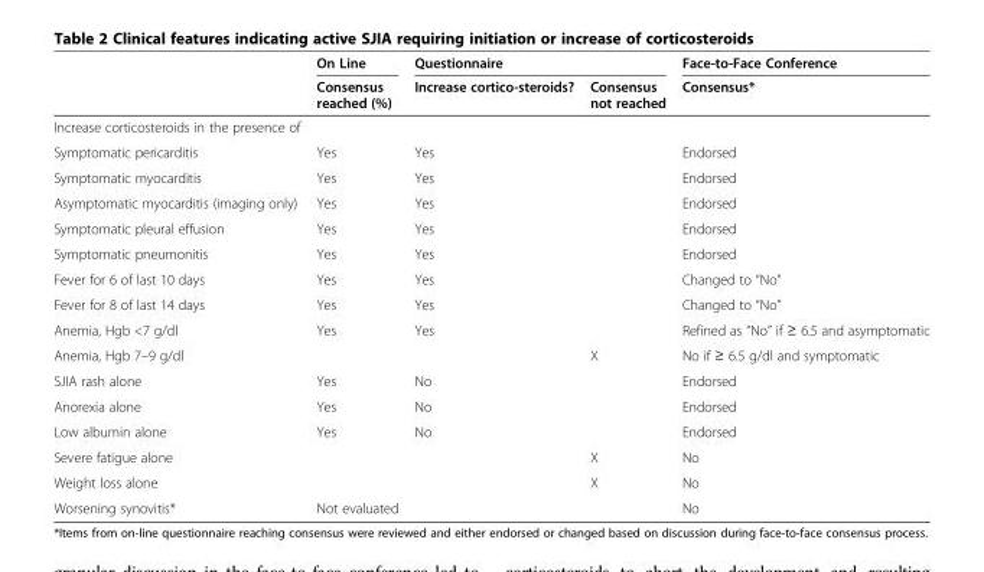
<table><thead><tr><td rowspan="2"></td><td rowspan="2">On Line Consensus reached (%)</td><td colspan="2">Questionnaire</td><td rowspan="2">Face-to-Face Conference Consensus*</td></tr><tr><td>Increase cortico-steroids?</td><td>Consensus not reached</td></tr></thead><tbody><tr><td colspan="5">Increase corticosteroids in the presence of</td></tr><tr><td>Symptomatic pericarditis</td><td>Yes</td><td>Yes</td><td></td><td>Endorsed</td></tr><tr><td>Symptomatic myocarditis</td><td>Yes</td><td>Yes</td><td></td><td>Endorsed</td></tr><tr><td>Asymptomatic myocarditis (imaging only)</td><td>Yes</td><td>Yes</td><td></td><td>Endorsed</td></tr><tr><td>Symptomatic pleural effusion</td><td>Yes</td><td>Yes</td><td></td><td>Endorsed</td></tr><tr><td>Symptomatic pneumonitis</td><td>Yes</td><td>Yes</td><td></td><td>Endorsed</td></tr><tr><td>Fever for 6 of last 10 days</td><td>Yes</td><td>Yes</td><td></td><td>Changed to “No”</td></tr><tr><td>Fever for 8 of last 14 days</td><td>Yes</td><td>Yes</td><td></td><td>Changed to “No”</td></tr><tr><td>Anemia, Hgb &lt;7 g/dl</td><td>Yes</td><td>Yes</td><td></td><td>Refined as “No” if ≥ 6.5 and asymptomatic</td></tr><tr><td>Anemia, Hgb 7–9 g/dl</td><td></td><td></td><td>X</td><td>No if ≥ 6.5 g/dl and symptomatic</td></tr><tr><td>SJIA rash alone</td><td>Yes</td><td>No</td><td></td><td>Endorsed</td></tr><tr><td>Anorexia alone</td><td>Yes</td><td>No</td><td></td><td>Endorsed</td></tr><tr><td>Low albumin alone</td><td>Yes</td><td>No</td><td></td><td>Endorsed</td></tr><tr><td>Severe fatigue alone</td><td></td><td></td><td>X</td><td>No</td></tr><tr><td>Weight loss alone</td><td></td><td></td><td>X</td><td>No</td></tr><tr><td>Worsening synovitis*</td><td>Not evaluated</td><td></td><td></td><td>No</td></tr></tbody></table>